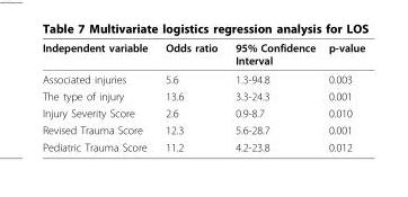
<table><thead><tr><td>Independent variable</td><td>Odds ratio</td><td>95% Confidence Interval</td><td>p-value</td></tr></thead><tbody><tr><td>Associated injuries</td><td>5.6</td><td>1.3-94.8</td><td>0.003</td></tr><tr><td>The type of injury</td><td>13.6</td><td>3.3-24.3</td><td>0.001</td></tr><tr><td>Injury Severity Score</td><td>2.6</td><td>0.9-8.7</td><td>0.010</td></tr><tr><td>Revised Trauma Score</td><td>12.3</td><td>5.6-28.7</td><td>0.001</td></tr><tr><td>Pediatric Trauma Score</td><td>11.2</td><td>4.2-23.8</td><td>0.012</td></tr></tbody></table>